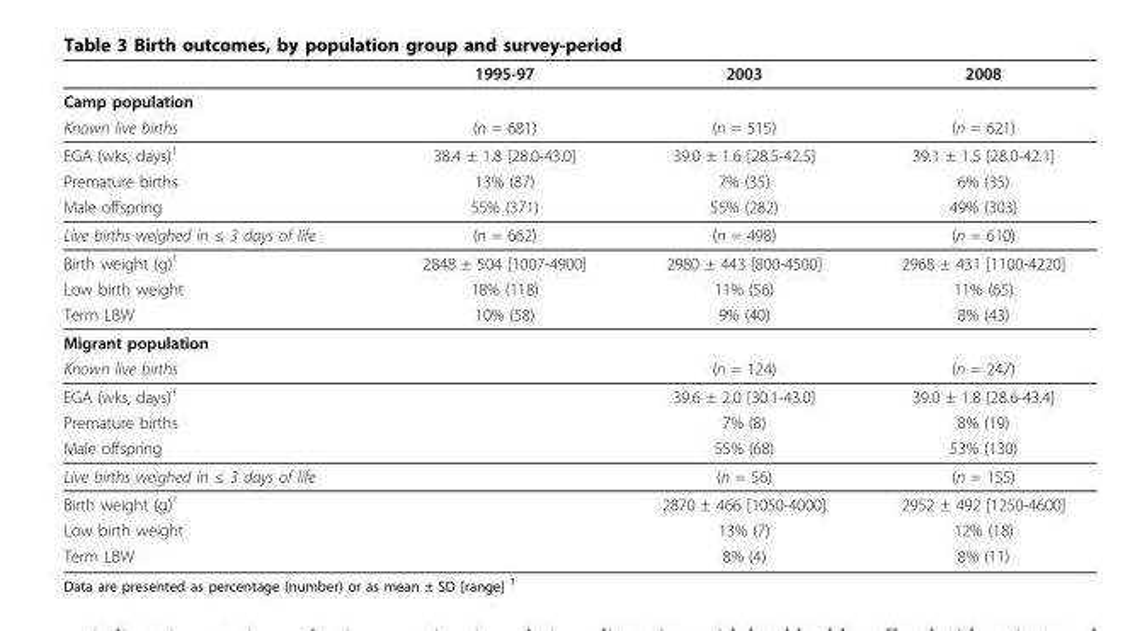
<table><thead><tr><td></td><td>1995-97</td><td>2003</td><td>2008</td></tr></thead><tbody><tr><td colspan="4">Camp population</td></tr><tr><td>Known live births</td><td>(n = 681)</td><td>(n = 515)</td><td>(n = 621)</td></tr><tr><td>EGA (wks, days)<sup>1</sup></td><td>38.4 ± 1.8 [28.0-43.0]</td><td>39.0 ± 1.6 [28.5-42.5]</td><td>39.1 ± 1.5 [28.0-42.1]</td></tr><tr><td>Premature births</td><td>13% (87)</td><td>7% (35)</td><td>6% (35)</td></tr><tr><td>Male offspring</td><td>55% (371)</td><td>55% (282)</td><td>49% (303)</td></tr><tr><td>Live births weighed in ≤ 3 days of life</td><td>(n = 662)</td><td>(n = 498)</td><td>(n = 610)</td></tr><tr><td>Birth weight (g)<sup>1</sup></td><td>2848 ± 504 [1007-4900]</td><td>2980 ± 443 [800-4500]</td><td>2968 ± 431 [1100-4220]</td></tr><tr><td>Low birth weight</td><td>18% (118)</td><td>11% (56)</td><td>11% (65)</td></tr><tr><td>Term LBW</td><td>10% (58)</td><td>9% (40)</td><td>8% (43)</td></tr><tr><td colspan="4">Migrant population</td></tr><tr><td>Known live births</td><td></td><td>(n = 124)</td><td>(n = 247)</td></tr><tr><td>EGA (wks, days)<sup>1</sup></td><td></td><td>39.6 ± 2.0 [30.1-43.0]</td><td>39.0 ± 1.8 [28.6-43.4]</td></tr><tr><td>Premature births</td><td></td><td>7% (8)</td><td>8% (19)</td></tr><tr><td>Male offspring</td><td></td><td>55% (68)</td><td>53% (130)</td></tr><tr><td>Live births weighed in ≤ 3 days of life</td><td></td><td>(n = 56)</td><td>(n = 155)</td></tr><tr><td>Birth weight (g)<sup>1</sup></td><td></td><td>2870 ± 466 [1050-4000]</td><td>2952 ± 492 [1250-4600]</td></tr><tr><td>Low birth weight</td><td></td><td>13% (7)</td><td>12% (18)</td></tr><tr><td>Term LBW</td><td></td><td>8% (4)</td><td>8% (11)</td></tr></tbody></table>